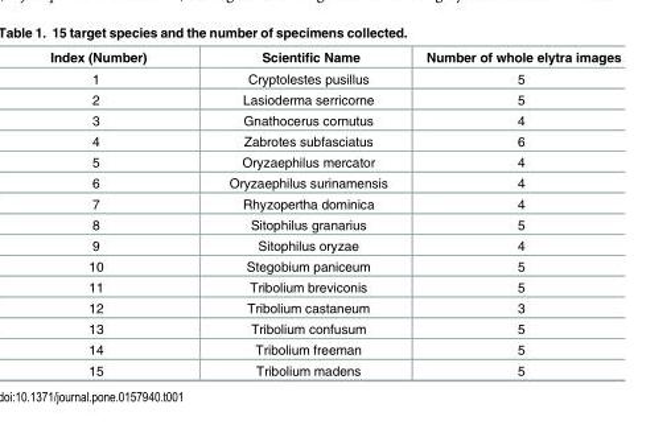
<table><thead><tr><td>Index (Number)</td><td>Scientific Name</td><td>Number of whole elytra images</td></tr></thead><tbody><tr><td>1</td><td>Cryptolestes pusillus</td><td>5</td></tr><tr><td>2</td><td>Lasioderma serricorne</td><td>5</td></tr><tr><td>3</td><td>Gnathocerus cornutus</td><td>4</td></tr><tr><td>4</td><td>Zabrotes subfasciatus</td><td>6</td></tr><tr><td>5</td><td>Oryzaephilus mercator</td><td>4</td></tr><tr><td>6</td><td>Oryzaephilus surinamensis</td><td>4</td></tr><tr><td>7</td><td>Rhyzopertha dominica</td><td>4</td></tr><tr><td>8</td><td>Sitophilus granarius</td><td>5</td></tr><tr><td>9</td><td>Sitophilus oryzae</td><td>4</td></tr><tr><td>10</td><td>Stegobium paniceum</td><td>5</td></tr><tr><td>11</td><td>Tribolium breviconis</td><td>5</td></tr><tr><td>12</td><td>Tribolium castaneum</td><td>3</td></tr><tr><td>13</td><td>Tribolium confusum</td><td>5</td></tr><tr><td>14</td><td>Tribolium freeman</td><td>5</td></tr><tr><td>15</td><td>Tribolium madens</td><td>5</td></tr></tbody></table>